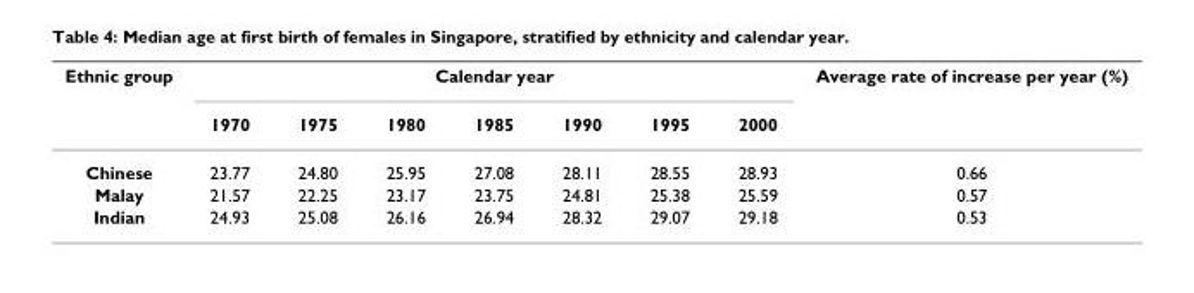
<table><thead><tr><td rowspan="2">Ethnic group</td><td colspan="7">Calendar year</td><td rowspan="2">Average rate of increase per year (%)</td></tr><tr><td>1970</td><td>1975</td><td>1980</td><td>1985</td><td>1990</td><td>1995</td><td>2000</td></tr></thead><tbody><tr><td>Chinese</td><td>23.77</td><td>24.80</td><td>25.95</td><td>27.08</td><td>28.11</td><td>28.55</td><td>28.93</td><td>0.66</td></tr><tr><td>Malay</td><td>21.57</td><td>22.25</td><td>23.17</td><td>23.75</td><td>24.81</td><td>25.38</td><td>25.59</td><td>0.57</td></tr><tr><td>Indian</td><td>24.93</td><td>25.08</td><td>26.16</td><td>26.94</td><td>28.32</td><td>29.07</td><td>29.18</td><td>0.53</td></tr></tbody></table>